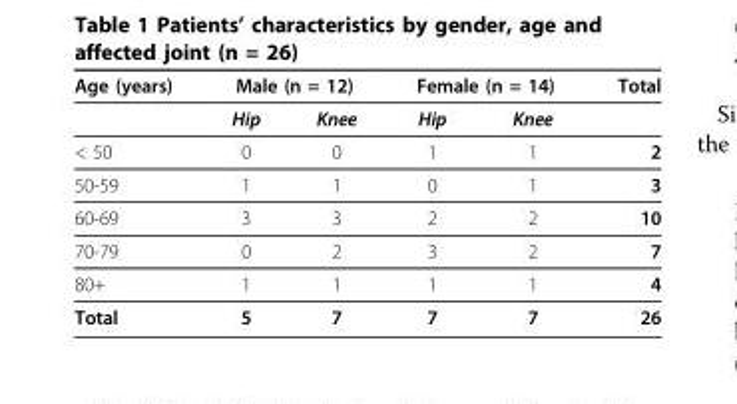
<table><thead><tr><td rowspan="2">Age (years)</td><td colspan="2">Male (n = 12)</td><td colspan="2">Female (n = 14)</td><td rowspan="2">Total</td></tr><tr><td>Hip</td><td>Knee</td><td>Hip</td><td>Knee</td></tr></thead><tbody><tr><td>&lt; 50</td><td>0</td><td>0</td><td>1</td><td>1</td><td>2</td></tr><tr><td>50-59</td><td>1</td><td>1</td><td>0</td><td>1</td><td>3</td></tr><tr><td>60-69</td><td>3</td><td>3</td><td>2</td><td>2</td><td>10</td></tr><tr><td>70-79</td><td>0</td><td>2</td><td>3</td><td>2</td><td>7</td></tr><tr><td>80+</td><td>1</td><td>1</td><td>1</td><td>1</td><td>4</td></tr><tr><td>Total</td><td>5</td><td>7</td><td>7</td><td>7</td><td>26</td></tr></tbody></table>